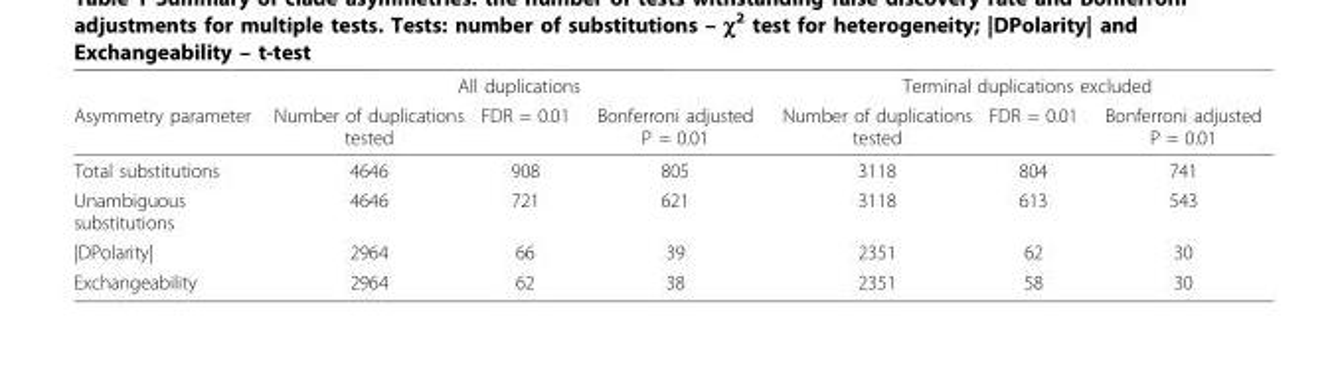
<table><thead><tr><td rowspan="2">Asymmetry parameter</td><td colspan="3">All duplications</td><td colspan="3">Terminal duplications excluded</td></tr><tr><td>Number of duplications tested</td><td>FDR = 0.01</td><td>Bonferroni adjusted P = 0.01</td><td>Number of duplications tested</td><td>FDR = 0.01</td><td>Bonferroni adjusted P = 0.01</td></tr></thead><tbody><tr><td>Total substitutions</td><td>4646</td><td>908</td><td>805</td><td>3118</td><td>804</td><td>741</td></tr><tr><td>Unambiguous substitutions</td><td>4646</td><td>721</td><td>621</td><td>3118</td><td>613</td><td>543</td></tr><tr><td>|DPolarity|</td><td>2964</td><td>66</td><td>39</td><td>2351</td><td>62</td><td>30</td></tr><tr><td>Exchangeability</td><td>2964</td><td>62</td><td>38</td><td>2351</td><td>58</td><td>30</td></tr></tbody></table>